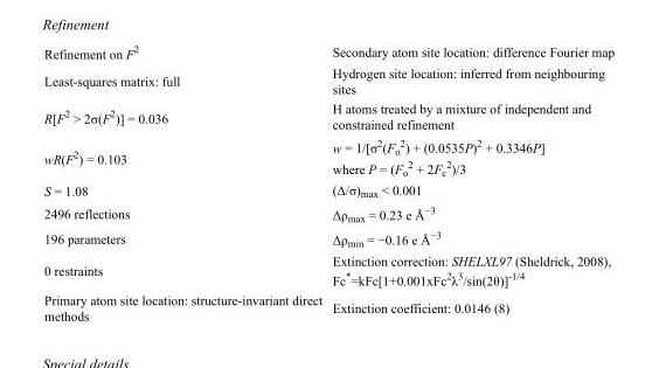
<table><tbody><tr><td>Refinement on F<sup>2</sup></td><td>Secondary atom site location: difference Fourier map</td></tr><tr><td>Least-squares matrix: full</td><td>Hydrogen site location: inferred from neighbouring sites</td></tr><tr><td>R[F<sup>2</sup> &gt; 2σ(F<sup>2</sup>)] = 0.036</td><td>H atoms treated by a mixture of independent and constrained refinement</td></tr><tr><td>wR(F<sup>2</sup>) = 0.103</td><td>w = 1/[σ<sup>2</sup>(F<sub>o</sub> <sup>2</sup>) + (0.0535P)<sup>2</sup> + 0.3346P] where P = (F<sub>o</sub> <sup>2</sup> + 2F<sub>c</sub> <sup>2</sup>)/3</td></tr><tr><td>S = 1.08</td><td>(Δ/σ)<sub>max</sub> &lt; 0.001</td></tr><tr><td>2496 reflections</td><td>Δρ<sub>max</sub> = 0.23 e Å<sup>−3</sup></td></tr><tr><td>196 parameters</td><td>Δρ<sub>min</sub> = −0.16 e Å<sup>−3</sup></td></tr><tr><td>0 restraints</td><td>Extinction correction: SHELXL97 (Sheldrick, 2008), Fc*=kFc[1+0.001xFc<sup>2</sup>λ<sup>3</sup>/sin(2θ)]<sup>-1/4</sup></td></tr><tr><td>Primary atom site location: structure-invariant direct methods</td><td>Extinction coefficient: 0.0146 (8)</td></tr></tbody></table>